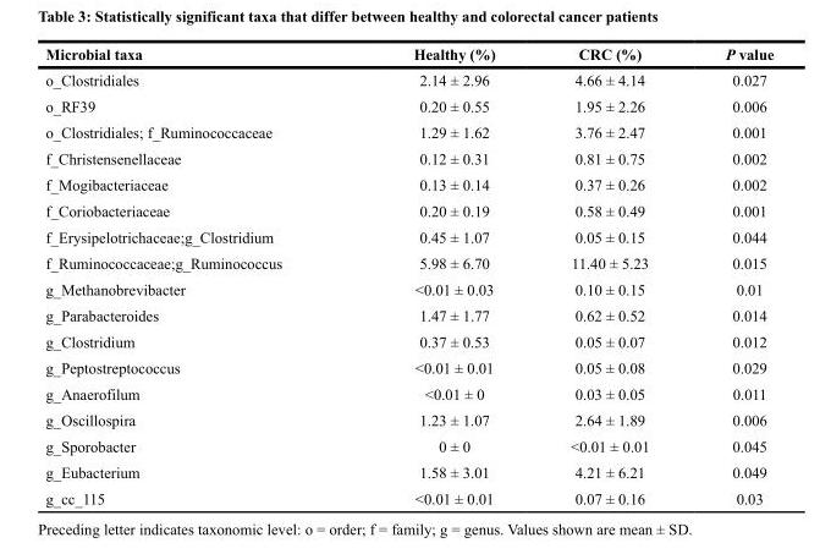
<table><thead><tr><td>Microbial taxa</td><td>Healthy (%)</td><td>CRC (%)</td><td>P value</td></tr></thead><tbody><tr><td>o_Clostridiales</td><td>2.14 ± 2.96</td><td>4.66 ± 4.14</td><td>0.027</td></tr><tr><td>o_RF39</td><td>0.20 ± 0.55</td><td>1.95 ± 2.26</td><td>0.006</td></tr><tr><td>o_Clostridiales; f_Ruminococcaceae</td><td>1.29 ± 1.62</td><td>3.76 ± 2.47</td><td>0.001</td></tr><tr><td>f_Christensenellaceae</td><td>0.12 ± 0.31</td><td>0.81 ± 0.75</td><td>0.002</td></tr><tr><td>f_Mogibacteriaceae</td><td>0.13 ± 0.14</td><td>0.37 ± 0.26</td><td>0.002</td></tr><tr><td>f_Coriobacteriaceae</td><td>0.20 ± 0.19</td><td>0.58 ± 0.49</td><td>0.001</td></tr><tr><td>f_Erysipelotrichaceae;g_Clostridium</td><td>0.45 ± 1.07</td><td>0.05 ± 0.15</td><td>0.044</td></tr><tr><td>f_Ruminococcaceae;g_Ruminococcus</td><td>5.98 ± 6.70</td><td>11.40 ± 5.23</td><td>0.015</td></tr><tr><td>g_Methanobrevibacter</td><td>&lt;0.01 ± 0.03</td><td>0.10 ± 0.15</td><td>0.01</td></tr><tr><td>g_Parabacteroides</td><td>1.47 ± 1.77</td><td>0.62 ± 0.52</td><td>0.014</td></tr><tr><td>g_Clostridium</td><td>0.37 ± 0.53</td><td>0.05 ± 0.07</td><td>0.012</td></tr><tr><td>g_Peptostreptococcus</td><td>&lt;0.01 ± 0.01</td><td>0.05 ± 0.08</td><td>0.029</td></tr><tr><td>g_Anaerofilum</td><td>&lt;0.01 ± 0</td><td>0.03 ± 0.05</td><td>0.011</td></tr><tr><td>g_Oscillospira</td><td>1.23 ± 1.07</td><td>2.64 ± 1.89</td><td>0.006</td></tr><tr><td>g_Sporobacter</td><td>0 ± 0</td><td>&lt;0.01 ± 0.01</td><td>0.045</td></tr><tr><td>g_Eubacterium</td><td>1.58 ± 3.01</td><td>4.21 ± 6.21</td><td>0.049</td></tr><tr><td>g_cc_115</td><td>&lt;0.01 ± 0.01</td><td>0.07 ± 0.16</td><td>0.03</td></tr></tbody></table>